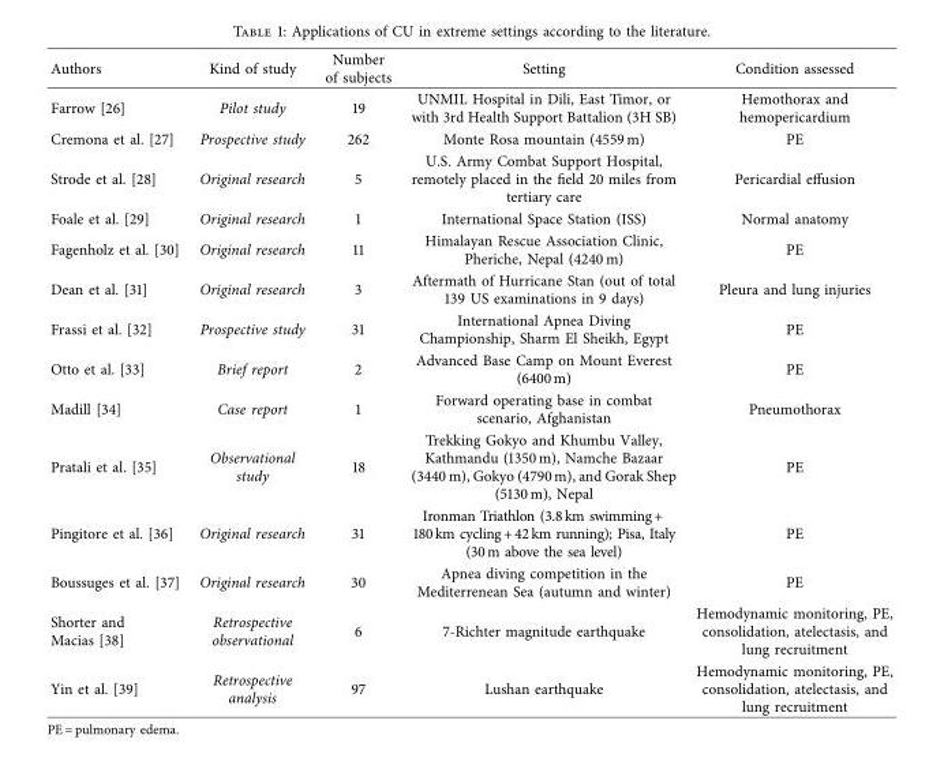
<table><thead><tr><td>Authors</td><td>Kind of study</td><td>Number of subjects</td><td>Setting</td><td>Condition assessed</td></tr></thead><tbody><tr><td>Farrow [26]</td><td>Pilot study</td><td>19</td><td>UNMIL Hospital in Dili, East Timor, or with 3rd Health Support Battalion (3H SB)</td><td>Hemothorax and hemopericardium</td></tr><tr><td>Cremona et al. [27]</td><td>Prospective study</td><td>262</td><td>Monte Rosa mountain (4559 m)</td><td>PE</td></tr><tr><td>Strode et al. [28]</td><td>Original research</td><td>5</td><td>U.S. Army Combat Support Hospital, remotely placed in the field 20 miles from tertiary care</td><td>Pericardial effusion</td></tr><tr><td>Foale et al. [29]</td><td>Original research</td><td>1</td><td>International Space Station (ISS)</td><td>Normal anatomy</td></tr><tr><td>Fagenholz et al. [30]</td><td>Original research</td><td>11</td><td>Himalayan Rescue Association Clinic, Pheriche, Nepal (4240 m)</td><td>PE</td></tr><tr><td>Dean et al. [31]</td><td>Original research</td><td>3</td><td>Aftermath of Hurricane Stan (out of total 139 US examinations in 9 days)</td><td>Pleura and lung injuries</td></tr><tr><td>Frassi et al. [32]</td><td>Prospective study</td><td>31</td><td>International Apnea Diving Championship, Sharm El Sheikh, Egypt</td><td>PE</td></tr><tr><td>Otto et al. [33]</td><td>Brief report</td><td>2</td><td>Advanced Base Camp on Mount Everest (6400 m)</td><td>PE</td></tr><tr><td>Madill [34]</td><td>Case report</td><td>1</td><td>Forward operating base in combat scenario, Afghanistan</td><td>Pneumothorax</td></tr><tr><td>Pratali et al. [35]</td><td>Observational study</td><td>18</td><td>Trekking Gokyo and Khumbu Valley, Kathmandu (1350 m), Namche Bazaar (3440 m), Gokyo (4790 m), and Gorak Shep (5130 m), Nepal</td><td>PE</td></tr><tr><td>Pingitore et al. [36]</td><td>Original research</td><td>31</td><td>Ironman Triathlon (3.8km swimming+ 180km cycling+42km running); Pisa, Italy (30 m above the sea level)</td><td>PE</td></tr><tr><td>Boussuges et al. [37]</td><td>Original research</td><td>30</td><td>Apnea diving competition in the Mediterrenean Sea (autumn and winter)</td><td>PE</td></tr><tr><td>Shorter and Macias [38]</td><td>Retrospective observational</td><td>6</td><td>7-Richter magnitude earthquake</td><td>Hemodynamic monitoring, PE, consolidation, atelectasis, and lung recruitment</td></tr><tr><td>Yin et al. [39]</td><td>Retrospective analysis</td><td>97</td><td>Lushan earthquake</td><td>Hemodynamic monitoring, PE, consolidation, atelectasis, and lung recruitment</td></tr></tbody></table>